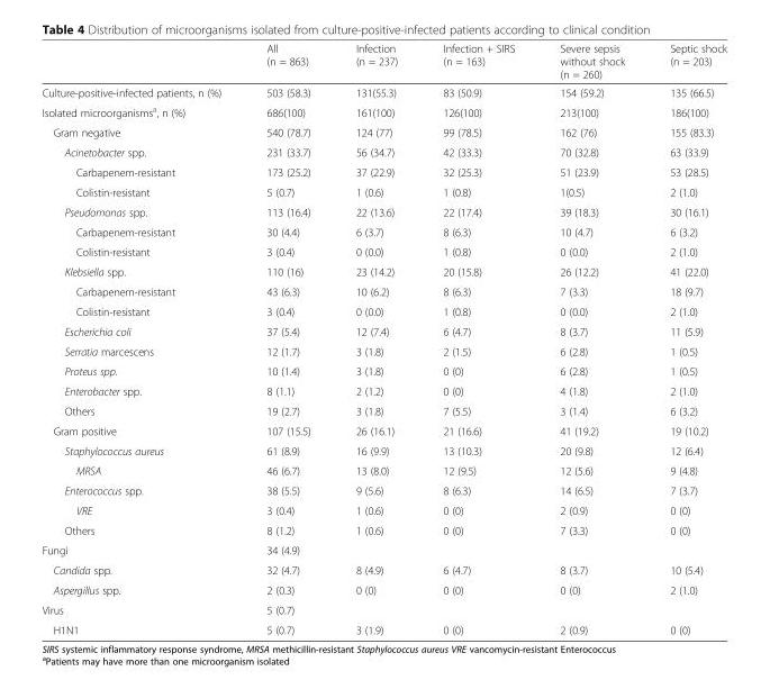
<table><thead><tr><td></td><td>All (n = 863)</td><td>Infection (n = 237)</td><td>Infection + SIRS (n = 163)</td><td>Severe sepsis without shock (n = 260)</td><td>Septic shock (n = 203)</td></tr></thead><tbody><tr><td>Culture-positive-infected patients, n (%)</td><td>503 (58.3)</td><td>131(55.3)</td><td>83 (50.9)</td><td>154 (59.2)</td><td>135 (66.5)</td></tr><tr><td>Isolated microorganisms<sup>a</sup>, n (%)</td><td>686(100)</td><td>161(100)</td><td>126(100)</td><td>213(100)</td><td>186(100)</td></tr><tr><td>Gram negative</td><td>540 (78.7)</td><td>124 (77)</td><td>99 (78.5)</td><td>162 (76)</td><td>155 (83.3)</td></tr><tr><td>Acinetobacter spp.</td><td>231 (33.7)</td><td>56 (34.7)</td><td>42 (33.3)</td><td>70 (32.8)</td><td>63 (33.9)</td></tr><tr><td>Carbapenem-resistant</td><td>173 (25.2)</td><td>37 (22.9)</td><td>32 (25.3)</td><td>51 (23.9)</td><td>53 (28.5)</td></tr><tr><td>Colistin-resistant</td><td>5 (0.7)</td><td>1 (0.6)</td><td>1 (0.8)</td><td>1(0.5)</td><td>2 (1.0)</td></tr><tr><td>Pseudomonas spp.</td><td>113 (16.4)</td><td>22 (13.6)</td><td>22 (17.4)</td><td>39 (18.3)</td><td>30 (16.1)</td></tr><tr><td>Carbapenem-resistant</td><td>30 (4.4)</td><td>6 (3.7)</td><td>8 (6.3)</td><td>10 (4.7)</td><td>6 (3.2)</td></tr><tr><td>Colistin-resistant</td><td>3 (0.4)</td><td>0 (0.0)</td><td>1 (0.8)</td><td>0 (0.0)</td><td>2 (1.0)</td></tr><tr><td>Klebsiella spp.</td><td>110 (16)</td><td>23 (14.2)</td><td>20 (15.8)</td><td>26 (12.2)</td><td>41 (22.0)</td></tr><tr><td>Carbapenem-resistant</td><td>43 (6.3)</td><td>10 (6.2)</td><td>8 (6.3)</td><td>7 (3.3)</td><td>18 (9.7)</td></tr><tr><td>Colistin-resistant</td><td>3 (0.4)</td><td>0 (0.0)</td><td>1 (0.8)</td><td>0 (0.0)</td><td>2 (1.0)</td></tr><tr><td>Escherichia coli</td><td>37 (5.4)</td><td>12 (7.4)</td><td>6 (4.7)</td><td>8 (3.7)</td><td>11 (5.9)</td></tr><tr><td>Serratia marcescens</td><td>12 (1.7)</td><td>3 (1.8)</td><td>2 (1.5)</td><td>6 (2.8)</td><td>1 (0.5)</td></tr><tr><td>Proteus spp.</td><td>10 (1.4)</td><td>3 (1.8)</td><td>0 (0)</td><td>6 (2.8)</td><td>1 (0.5)</td></tr><tr><td>Enterobacter spp.</td><td>8 (1.1)</td><td>2 (1.2)</td><td>0 (0)</td><td>4 (1.8)</td><td>2 (1.0)</td></tr><tr><td>Others</td><td>19 (2.7)</td><td>3 (1.8)</td><td>7 (5.5)</td><td>3 (1.4)</td><td>6 (3.2)</td></tr><tr><td>Gram positive</td><td>107 (15.5)</td><td>26 (16.1)</td><td>21 (16.6)</td><td>41 (19.2)</td><td>19 (10.2)</td></tr><tr><td>Staphylococcus aureus</td><td>61 (8.9)</td><td>16 (9.9)</td><td>13 (10.3)</td><td>20 (9.8)</td><td>12 (6.4)</td></tr><tr><td>MRSA</td><td>46 (6.7)</td><td>13 (8.0)</td><td>12 (9.5)</td><td>12 (5.6)</td><td>9 (4.8)</td></tr><tr><td>Enterococcus spp.</td><td>38 (5.5)</td><td>9 (5.6)</td><td>8 (6.3)</td><td>14 (6.5)</td><td>7 (3.7)</td></tr><tr><td>VRE</td><td>3 (0.4)</td><td>1 (0.6)</td><td>0 (0)</td><td>2 (0.9)</td><td>0 (0)</td></tr><tr><td>Others</td><td>8 (1.2)</td><td>1 (0.6)</td><td>0 (0)</td><td>7 (3.3)</td><td>0 (0)</td></tr><tr><td>Fungi</td><td>34 (4.9)</td><td></td><td></td><td></td><td></td></tr><tr><td>Candida spp.</td><td>32 (4.7)</td><td>8 (4.9)</td><td>6 (4.7)</td><td>8 (3.7)</td><td>10 (5.4)</td></tr><tr><td>Aspergillus spp.</td><td>2 (0.3)</td><td>0 (0)</td><td>0 (0)</td><td>0 (0)</td><td>2 (1.0)</td></tr><tr><td>Virus</td><td>5 (0.7)</td><td></td><td></td><td></td><td></td></tr><tr><td>H1N1</td><td>5 (0.7)</td><td>3 (1.9)</td><td>0 (0)</td><td>2 (0.9)</td><td>0 (0)</td></tr></tbody></table>